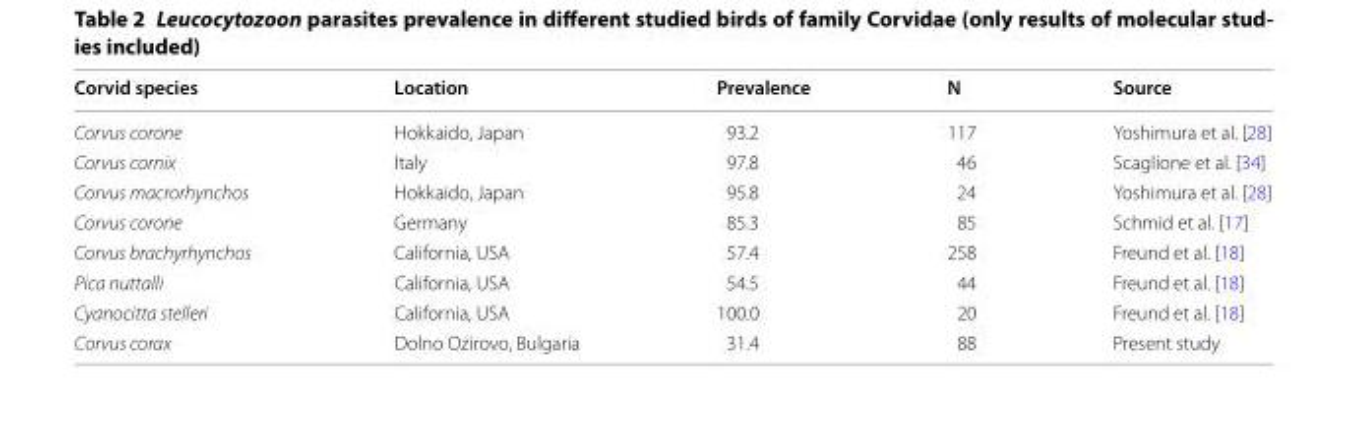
<table><thead><tr><td>Corvid species</td><td>Location</td><td>Prevalence</td><td>N</td><td>Source</td></tr></thead><tbody><tr><td>Corvus corone</td><td>Hokkaido, Japan</td><td>93.2</td><td>117</td><td>Yoshimura et al. [28]</td></tr><tr><td>Corvus cornix</td><td>Italy</td><td>97.8</td><td>46</td><td>Scaglione et al. [34]</td></tr><tr><td>Corvus macrorhynchos</td><td>Hokkaido, Japan</td><td>95.8</td><td>24</td><td>Yoshimura et al. [28]</td></tr><tr><td>Corvus corone</td><td>Germany</td><td>85.3</td><td>85</td><td>Schmid et al. [17]</td></tr><tr><td>Corvus brachyrhynchos</td><td>California, USA</td><td>57.4</td><td>258</td><td>Freund et al. [18]</td></tr><tr><td>Pica nuttalli</td><td>California, USA</td><td>54.5</td><td>44</td><td>Freund et al. [18]</td></tr><tr><td>Cyanocitta stelleri</td><td>California, USA</td><td>100.0</td><td>20</td><td>Freund et al. [18]</td></tr><tr><td>Corvus corax</td><td>Dolno Ozirovo, Bulgaria</td><td>31.4</td><td>88</td><td>Present study</td></tr></tbody></table>